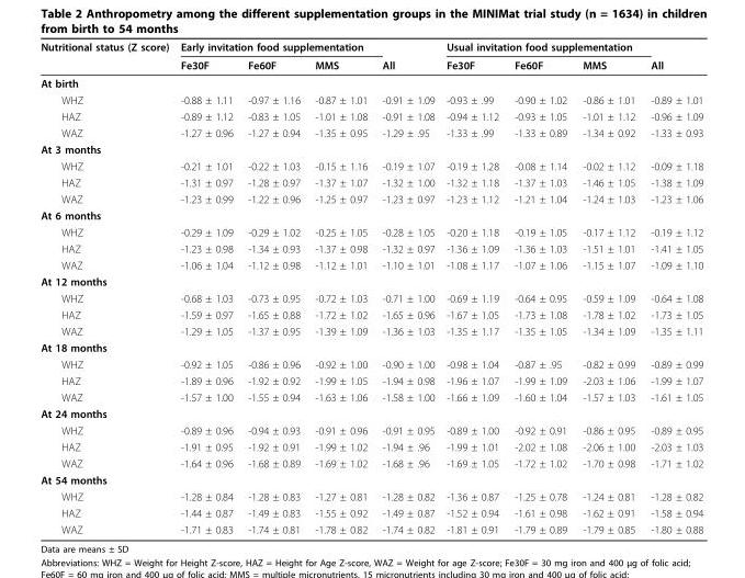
<table><thead><tr><td rowspan="2">Nutritional status (Z score)</td><td colspan="3">Early invitation food supplementation</td><td rowspan="2">All</td><td colspan="3">Usual invitation food supplementation</td><td rowspan="2">All</td></tr><tr><td>Fe30F</td><td>Fe60F</td><td>MMS</td><td>Fe30F</td><td>Fe60F</td><td>MMS</td></tr></thead><tbody><tr><td colspan="9">At birth</td></tr><tr><td>WHZ</td><td>-0.88 ± 1.11</td><td>-0.97 ± 1.16</td><td>-0.87 ± 1.01</td><td>-0.91 ± 1.09</td><td>-0.93 ± .99</td><td>-0.90 ± 1.02</td><td>-0.86 ± 1.01</td><td>-0.89 ± 1.01</td></tr><tr><td>HAZ</td><td>-0.89 ± 1.12</td><td>-0.83 ± 1.05</td><td>-1.01 ± 1.08</td><td>-0.91 ± 1.08</td><td>-0.94 ± 1.12</td><td>-0.93 ± 1.05</td><td>-1.01 ± 1.12</td><td>-0.96 ± 1.09</td></tr><tr><td>WAZ</td><td>-1.27 ± 0.96</td><td>-1.27 ± 0.94</td><td>-1.35 ± 0.95</td><td>-1.29 ± .95</td><td>-1.33 ± .99</td><td>-1.33 ± 0.89</td><td>-1.34 ± 0.92</td><td>-1.33 ± 0.93</td></tr><tr><td colspan="9">At 3 months</td></tr><tr><td>WHZ</td><td>-0.21 ± 1.01</td><td>-0.22 ± 1.03</td><td>-0.15 ± 1.16</td><td>-0.19 ± 1.07</td><td>-0.19 ± 1.28</td><td>-0.08 ± 1.14</td><td>-0.02 ± 1.12</td><td>-0.09 ± 1.18</td></tr><tr><td>HAZ</td><td>-1.31 ± 0.97</td><td>-1.28 ± 0.97</td><td>-1.37 ± 1.07</td><td>-1.32 ± 1.00</td><td>-1.32 ± 1.18</td><td>-1.37 ± 1.03</td><td>-1.46 ± 1.05</td><td>-1.38 ± 1.09</td></tr><tr><td>WAZ</td><td>-1.23 ± 0.99</td><td>-1.22 ± 0.96</td><td>-1.25 ± 0.97</td><td>-1.23 ± 0.97</td><td>-1.23 ± 1.12</td><td>-1.21 ± 1.04</td><td>-1.24 ± 1.03</td><td>-1.23 ± 1.06</td></tr><tr><td colspan="9">At 6 months</td></tr><tr><td>WHZ</td><td>-0.29 ± 1.09</td><td>-0.29 ± 1.02</td><td>-0.25 ± 1.05</td><td>-0.28 ± 1.05</td><td>-0.20 ± 1.18</td><td>-0.19 ± 1.05</td><td>-0.17 ± 1.12</td><td>-0.19 ± 1.12</td></tr><tr><td>HAZ</td><td>-1.23 ± 0.98</td><td>-1.34 ± 0.93</td><td>-1.37 ± 0.98</td><td>-1.32 ± 0.97</td><td>-1.36 ± 1.09</td><td>-1.36 ± 1.03</td><td>-1.51 ± 1.01</td><td>-1.41 ± 1.05</td></tr><tr><td>WAZ</td><td>-1.06 ± 1.04</td><td>-1.12 ± 0.98</td><td>-1.12 ± 1.01</td><td>-1.10 ± 1.01</td><td>-1.08 ± 1.17</td><td>-1.07 ± 1.06</td><td>-1.15 ± 1.07</td><td>-1.09 ± 1.10</td></tr><tr><td colspan="9">At 12 months</td></tr><tr><td>WHZ</td><td>-0.68 ± 1.03</td><td>-0.73 ± 0.95</td><td>-0.72 ± 1.03</td><td>-0.71 ± 1.00</td><td>-0.69 ± 1.19</td><td>-0.64 ± 0.95</td><td>-0.59 ± 1.09</td><td>-0.64 ± 1.08</td></tr><tr><td>HAZ</td><td>-1.59 ± 0.97</td><td>-1.65 ± 0.88</td><td>-1.72 ± 1.02</td><td>-1.65 ± 0.96</td><td>-1.67 ± 1.05</td><td>-1.73 ± 1.08</td><td>-1.78 ± 1.02</td><td>-1.73 ± 1.05</td></tr><tr><td>WAZ</td><td>-1.29 ± 1.05</td><td>-1.37 ± 0.95</td><td>-1.39 ± 1.09</td><td>-1.36 ± 1.03</td><td>-1.35 ± 1.17</td><td>-1.35 ± 1.05</td><td>-1.34 ± 1.09</td><td>-1.35 ± 1.11</td></tr><tr><td colspan="9">At 18 months</td></tr><tr><td>WHZ</td><td>-0.92 ± 1.05</td><td>-0.86 ± 0.96</td><td>-0.92 ± 1.00</td><td>-0.90 ± 1.00</td><td>-0.98 ± 1.04</td><td>-0.87 ± .95</td><td>-0.82 ± 0.99</td><td>-0.89 ± 0.99</td></tr><tr><td>HAZ</td><td>-1.89 ± 0.96</td><td>-1.92 ± 0.92</td><td>-1.99 ± 1.05</td><td>-1.94 ± 0.98</td><td>-1.96 ± 1.07</td><td>-1.99 ± 1.09</td><td>-2.03 ± 1.06</td><td>-1.99 ± 1.07</td></tr><tr><td>WAZ</td><td>-1.57 ± 1.00</td><td>-1.55 ± 0.94</td><td>-1.63 ± 1.06</td><td>-1.58 ± 1.00</td><td>-1.66 ± 1.09</td><td>-1.60 ± 1.04</td><td>-1.57 ± 1.03</td><td>-1.61 ± 1.05</td></tr><tr><td colspan="9">At 24 months</td></tr><tr><td>WHZ</td><td>-0.89 ± 0.96</td><td>-0.94 ± 0.93</td><td>-0.91 ± 0.96</td><td>-0.91 ± 0.95</td><td>-0.89 ± 1.00</td><td>-0.92 ± 0.91</td><td>-0.86 ± 0.95</td><td>-0.89 ± 0.95</td></tr><tr><td>HAZ</td><td>-1.91 ± 0.95</td><td>-1.92 ± 0.91</td><td>-1.99 ± 1.02</td><td>-1.94 ± .96</td><td>-1.99 ± 1.01</td><td>-2.02 ± 1.08</td><td>-2.06 ± 1.00</td><td>-2.03 ± 1.03</td></tr><tr><td>WAZ</td><td>-1.64 ± 0.96</td><td>-1.68 ± 0.89</td><td>-1.69 ± 1.02</td><td>-1.68 ± .96</td><td>-1.69 ± 1.05</td><td>-1.72 ± 1.02</td><td>-1.70 ± 0.98</td><td>-1.71 ± 1.02</td></tr><tr><td colspan="9">At 54 months</td></tr><tr><td>WHZ</td><td>-1.28 ± 0.84</td><td>-1.28 ± 0.83</td><td>-1.27 ± 0.81</td><td>-1.28 ± 0.82</td><td>-1.36 ± 0.87</td><td>-1.25 ± 0.78</td><td>-1.24 ± 0.81</td><td>-1.28 ± 0.82</td></tr><tr><td>HAZ</td><td>-1.44 ± 0.87</td><td>-1.49 ± 0.83</td><td>-1.55 ± 0.92</td><td>-1.49 ± 0.87</td><td>-1.52 ± 0.94</td><td>-1.61 ± 0.98</td><td>-1.62 ± 0.91</td><td>-1.58 ± 0.94</td></tr><tr><td>WAZ</td><td>-1.71 ± 0.83</td><td>-1.74 ± 0.81</td><td>-1.78 ± 0.82</td><td>-1.74 ± 0.82</td><td>-1.81 ± 0.91</td><td>-1.79 ± 0.89</td><td>-1.79 ± 0.85</td><td>-1.80 ± 0.88</td></tr></tbody></table>